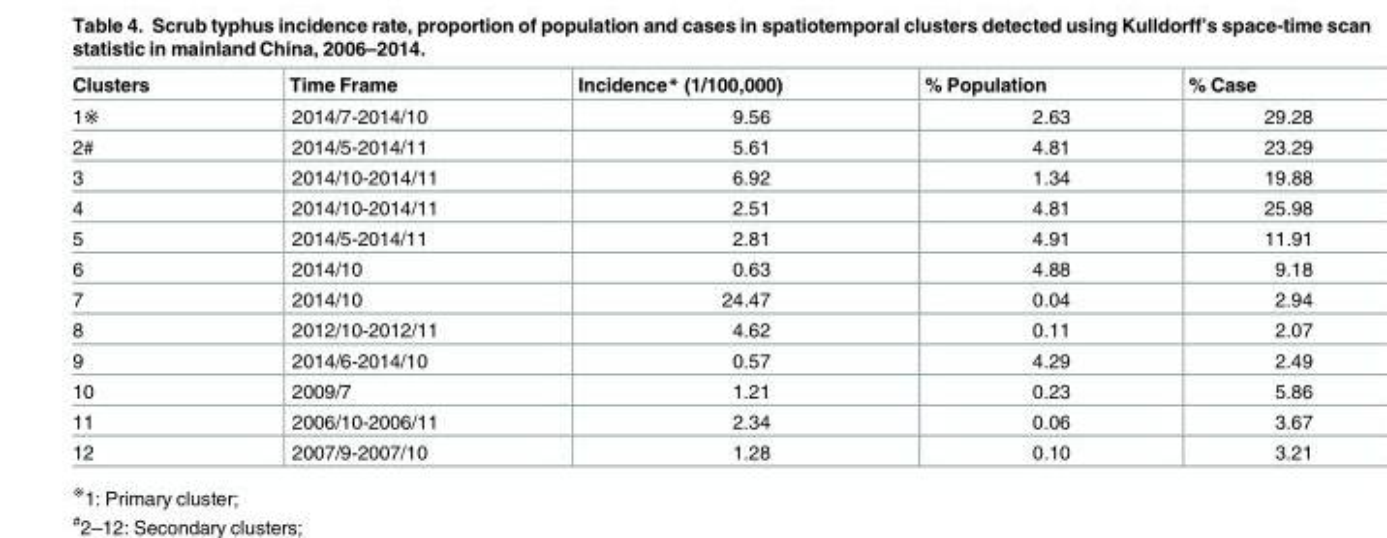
<table><thead><tr><td>Clusters</td><td>Time Frame</td><td>Incidence* (1/100,000)</td><td>% Population</td><td>% Case</td></tr></thead><tbody><tr><td>1※</td><td>2014/7-2014/10</td><td>9.56</td><td>2.63</td><td>29.28</td></tr><tr><td>2#</td><td>2014/5-2014/11</td><td>5.61</td><td>4.81</td><td>23.29</td></tr><tr><td>3</td><td>2014/10-2014/11</td><td>6.92</td><td>1.34</td><td>19.88</td></tr><tr><td>4</td><td>2014/10-2014/11</td><td>2.51</td><td>4.81</td><td>25.98</td></tr><tr><td>5</td><td>2014/5-2014/11</td><td>2.81</td><td>4.91</td><td>11.91</td></tr><tr><td>6</td><td>2014/10</td><td>0.63</td><td>4.88</td><td>9.18</td></tr><tr><td>7</td><td>2014/10</td><td>24.47</td><td>0.04</td><td>2.94</td></tr><tr><td>8</td><td>2012/10-2012/11</td><td>4.62</td><td>0.11</td><td>2.07</td></tr><tr><td>9</td><td>2014/6-2014/10</td><td>0.57</td><td>4.29</td><td>2.49</td></tr><tr><td>10</td><td>2009/7</td><td>1.21</td><td>0.23</td><td>5.86</td></tr><tr><td>11</td><td>2006/10-2006/11</td><td>2.34</td><td>0.06</td><td>3.67</td></tr><tr><td>12</td><td>2007/9-2007/10</td><td>1.28</td><td>0.10</td><td>3.21</td></tr></tbody></table>